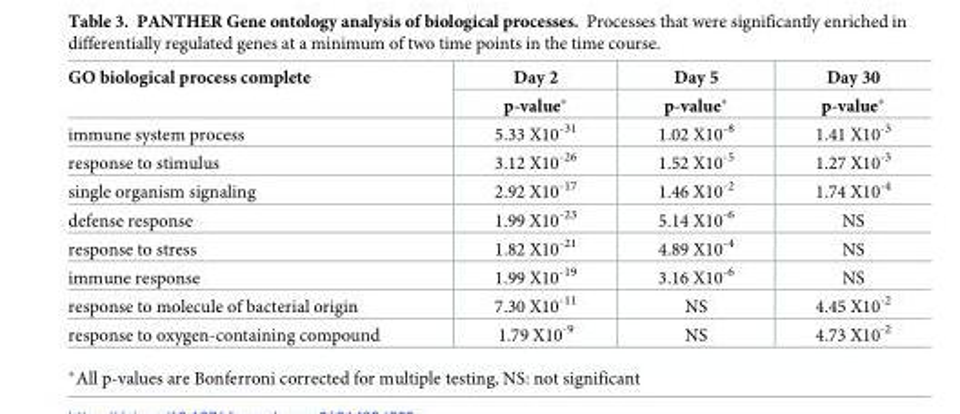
<table><thead><tr><td rowspan="2">GO biological process complete</td><td rowspan="2">Day 2 p-value*</td><td rowspan="2">Day 5 p-value*</td><td rowspan="2">Day 30 p-value*</td></tr><tr></tr></thead><tbody><tr><td>immune system process</td><td>5.33 X10<sup>-31</sup></td><td>1.02 X10<sup>-8</sup></td><td>1.41 X10<sup>-3</sup></td></tr><tr><td>response to stimulus</td><td>3.12 X10<sup>-26</sup></td><td>1.52 X10<sup>-5</sup></td><td>1.27 X10<sup>-3</sup></td></tr><tr><td>single organism signaling</td><td>2.92 X10<sup>-17</sup></td><td>1.46 X10<sup>-2</sup></td><td>1.74 X10<sup>-4</sup></td></tr><tr><td>defense response</td><td>1.99 X10<sup>-23</sup></td><td>5.14 X10<sup>-6</sup></td><td>NS</td></tr><tr><td>response to stress</td><td>1.82 X10<sup>-21</sup></td><td>4.89 X10<sup>-4</sup></td><td>NS</td></tr><tr><td>immune response</td><td>1.99 X10<sup>-19</sup></td><td>3.16 X10<sup>-6</sup></td><td>NS</td></tr><tr><td>response to molecule of bacterial origin</td><td>7.30 X10<sup>-11</sup></td><td>NS</td><td>4.45 X10<sup>-2</sup></td></tr><tr><td>response to oxygen-containing compound</td><td>1.79 X10<sup>-9</sup></td><td>NS</td><td>4.73 X10<sup>-2</sup></td></tr></tbody></table>